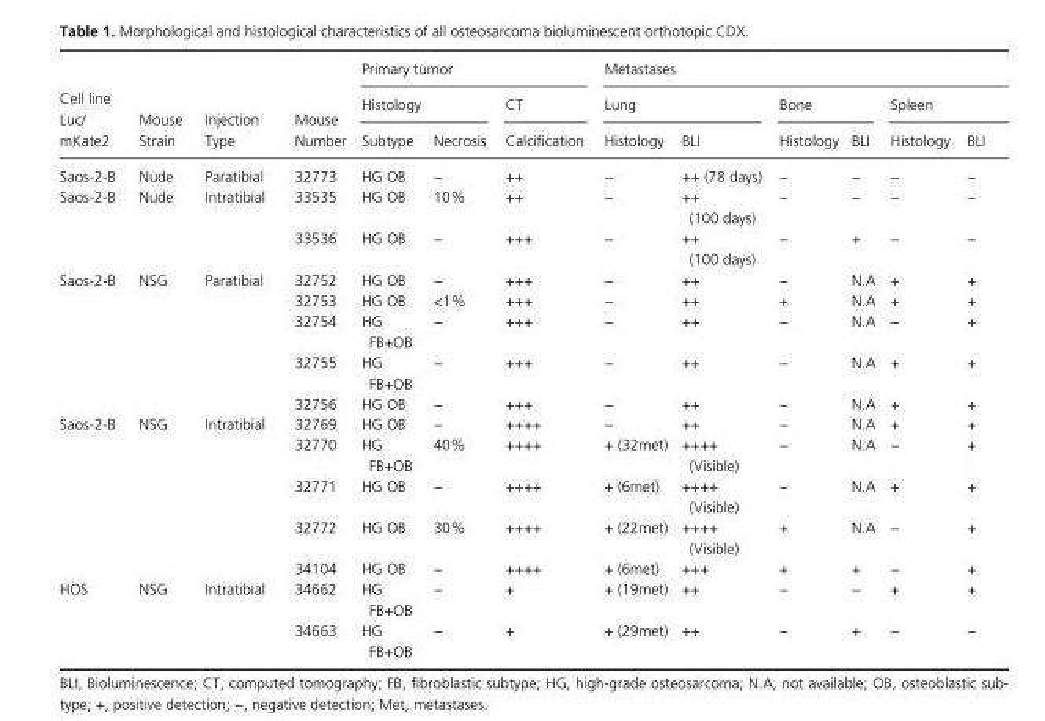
<table><thead><tr><td rowspan="3">Cell line Luc/ mKate2</td><td rowspan="3">Mouse Strain</td><td rowspan="3">Injection Type</td><td rowspan="3">Mouse Number</td><td colspan="3">Primary tumor</td><td colspan="6">Metastases</td></tr><tr><td colspan="2">Histology</td><td rowspan="2">CT Calcification</td><td colspan="2">Lung</td><td colspan="2">Bone</td><td colspan="2">Spleen</td></tr><tr><td>Subtype</td><td>Necrosis</td><td>Histology</td><td>BLI</td><td>Histology</td><td>BLI</td><td>Histology</td><td>BLI</td></tr></thead><tbody><tr><td>Saos- 2- B</td><td>Nude</td><td>Paratibial</td><td>32773</td><td>HG OB</td><td>−</td><td>++</td><td>−</td><td>++ (78 days)</td><td>−</td><td>−</td><td>−</td><td>−</td></tr><tr><td rowspan="2">Saos- 2- B</td><td rowspan="2">Nude</td><td rowspan="2">Intratibial</td><td>33535</td><td>HG OB</td><td>10%</td><td>++</td><td>−</td><td>++ (100 days)</td><td>−</td><td>−</td><td>−</td><td>−</td></tr><tr><td>33536</td><td>HG OB</td><td>−</td><td>+++</td><td>−</td><td>++ (100 days)</td><td>−</td><td>+</td><td>−</td><td>−</td></tr><tr><td rowspan="5">Saos- 2- B</td><td rowspan="5">NSG</td><td rowspan="5">Paratibial</td><td>32752</td><td>HG OB</td><td>−</td><td>+++</td><td>−</td><td>++</td><td>−</td><td>N.A</td><td>+</td><td>+</td></tr><tr><td>32753</td><td>HG OB</td><td>&lt;1%</td><td>+++</td><td>−</td><td>++</td><td>+</td><td>N.A</td><td>+</td><td>+</td></tr><tr><td>32754</td><td>HG FB+OB</td><td>−</td><td>+++</td><td>−</td><td>++</td><td>−</td><td>N.A</td><td>−</td><td>+</td></tr><tr><td>32755</td><td>HG FB+OB</td><td>−</td><td>+++</td><td>−</td><td>++</td><td>−</td><td>N.A</td><td>+</td><td>+</td></tr><tr><td>32756</td><td>HG OB</td><td>−</td><td>+++</td><td>−</td><td>++</td><td>−</td><td>N.A</td><td>+</td><td>+</td></tr><tr><td rowspan="5">Saos- 2- B</td><td rowspan="5">NSG</td><td rowspan="5">Intratibial</td><td>32769</td><td>HG OB</td><td>−</td><td>++++</td><td>−</td><td>++</td><td>−</td><td>N.A</td><td>+</td><td>+</td></tr><tr><td>32770</td><td>HG FB+OB</td><td>40%</td><td>++++</td><td>+ (32met)</td><td>++++ (Visible)</td><td>−</td><td>N.A</td><td>−</td><td>+</td></tr><tr><td>32771</td><td>HG OB</td><td>−</td><td>++++</td><td>+ (6met)</td><td>++++ (Visible)</td><td>−</td><td>N.A</td><td>+</td><td>+</td></tr><tr><td>32772</td><td>HG OB</td><td>30%</td><td>++++</td><td>+ (22met)</td><td>++++ (Visible)</td><td>+</td><td>N.A</td><td>−</td><td>+</td></tr><tr><td>34104</td><td>HG OB</td><td>−</td><td>++++</td><td>+ (6met)</td><td>+++</td><td>+</td><td>+</td><td>−</td><td>+</td></tr><tr><td rowspan="2">HOS</td><td rowspan="2">NSG</td><td rowspan="2">Intratibial</td><td>34662</td><td>HG FB+OB</td><td>−</td><td>+</td><td>+ (19met)</td><td>++</td><td>−</td><td>−</td><td>+</td><td>+</td></tr><tr><td>34663</td><td>HG FB+OB</td><td>−</td><td>+</td><td>+ (29met)</td><td>++</td><td>−</td><td>+</td><td>−</td><td>−</td></tr></tbody></table>